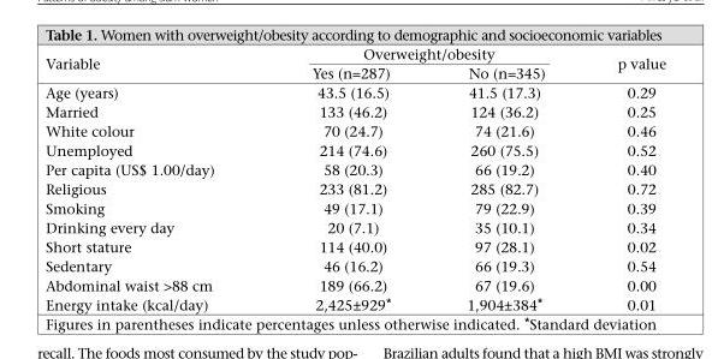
<table><thead><tr><td rowspan="2">Variable</td><td colspan="2">Overweight/obesity</td><td rowspan="2">p value</td></tr><tr><td>Yes (n=287)</td><td>No (n=345)</td></tr></thead><tbody><tr><td>Age (years)</td><td>43.5 (16.5)</td><td>41.5 (17.3)</td><td>0.29</td></tr><tr><td>Married</td><td>133 (46.2)</td><td>124 (36.2)</td><td>0.25</td></tr><tr><td>White colour</td><td>70 (24.7)</td><td>74 (21.6)</td><td>0.46</td></tr><tr><td>Unemployed</td><td>214 (74.6)</td><td>260 (75.5)</td><td>0.52</td></tr><tr><td>Per capita (US$ 1.00/day)</td><td>58 (20.3)</td><td>66 (19.2)</td><td>0.40</td></tr><tr><td>Religious</td><td>233 (81.2)</td><td>285 (82.7)</td><td>0.72</td></tr><tr><td>Smoking</td><td>49 (17.1)</td><td>79 (22.9)</td><td>0.39</td></tr><tr><td>Drinking every day</td><td>20 (7.1)</td><td>35 (10.1)</td><td>0.34</td></tr><tr><td>Short stature</td><td>114 (40.0)</td><td>97 (28.1)</td><td>0.02</td></tr><tr><td>Sedentary</td><td>46 (16.2)</td><td>66 (19.3)</td><td>0.54</td></tr><tr><td>Abdominal waist &gt;88 cm</td><td>189 (66.2)</td><td>67 (19.6)</td><td>0.00</td></tr><tr><td>Energy intake (kcal/day)</td><td>2,425±929*</td><td>1,904±384*</td><td>0.01</td></tr></tbody></table>